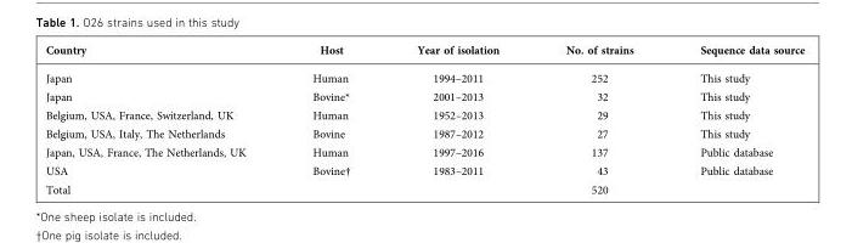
<table><thead><tr><td>Country</td><td>Host</td><td>Year of isolation</td><td>No. of strains</td><td>Sequence data source</td></tr></thead><tbody><tr><td>Japan</td><td>Human</td><td>1994–2011</td><td>252</td><td>This study</td></tr><tr><td>Japan</td><td>Bovine*</td><td>2001–2013</td><td>32</td><td>This study</td></tr><tr><td>Belgium, USA, France, Switzerland, UK</td><td>Human</td><td>1952–2013</td><td>29</td><td>This study</td></tr><tr><td>Belgium, USA, Italy, The Netherlands</td><td>Bovine</td><td>1987–2012</td><td>27</td><td>This study</td></tr><tr><td>Japan, USA, France, The Netherlands, UK</td><td>Human</td><td>1997–2016</td><td>137</td><td>Public database</td></tr><tr><td>USA</td><td>Bovine†</td><td>1983–2011</td><td>43</td><td>Public database</td></tr><tr><td>Total</td><td></td><td></td><td>520</td><td></td></tr></tbody></table>